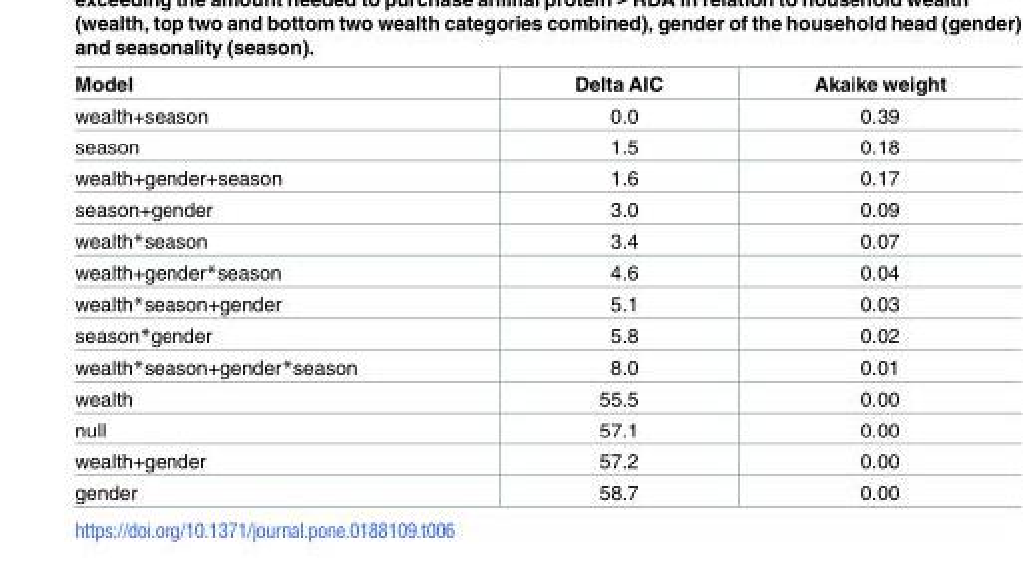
<table><thead><tr><td>Model</td><td>Delta AIC</td><td>Akaike weight</td></tr></thead><tbody><tr><td>wealth+season</td><td>0.0</td><td>0.39</td></tr><tr><td>season</td><td>1.5</td><td>0.18</td></tr><tr><td>wealth+gender+season</td><td>1.6</td><td>0.17</td></tr><tr><td>season+gender</td><td>3.0</td><td>0.09</td></tr><tr><td>wealth*season</td><td>3.4</td><td>0.07</td></tr><tr><td>wealth+gender*season</td><td>4.6</td><td>0.04</td></tr><tr><td>wealth*season+gender</td><td>5.1</td><td>0.03</td></tr><tr><td>season*gender</td><td>5.8</td><td>0.02</td></tr><tr><td>wealth*season+gender*season</td><td>8.0</td><td>0.01</td></tr><tr><td>wealth</td><td>55.5</td><td>0.00</td></tr><tr><td>null</td><td>57.1</td><td>0.00</td></tr><tr><td>wealth+gender</td><td>57.2</td><td>0.00</td></tr><tr><td>gender</td><td>58.7</td><td>0.00</td></tr></tbody></table>